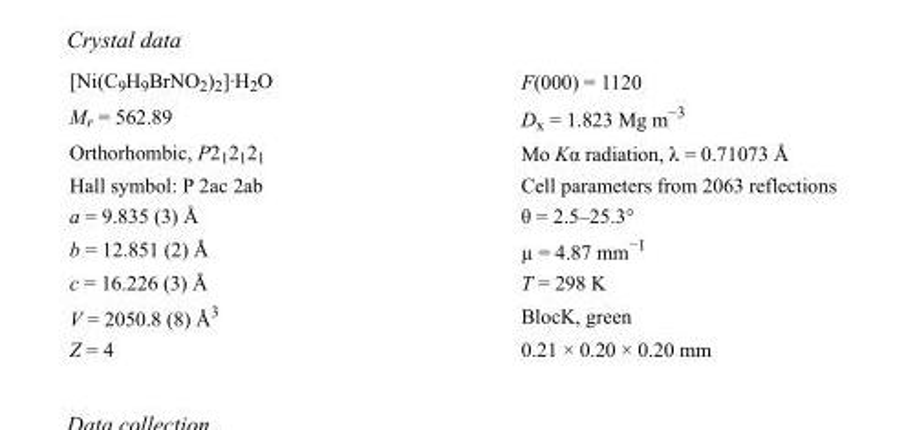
<table><tbody><tr><td>[Ni(C<sub>9</sub>H<sub>9</sub>BrNO<sub>2</sub>)<sub>2</sub>]·H<sub>2</sub>O</td><td>F(000) = 1120</td></tr><tr><td>M<sub>r</sub> = 562.89</td><td>D<sub>x</sub> = 1.823 Mg m<sup>−3</sup></td></tr><tr><td>Orthorhombic, P2<sub>1</sub>2<sub>1</sub>2<sub>1</sub></td><td>Mo Kα radiation, λ = 0.71073 Å</td></tr><tr><td>Hall symbol: P 2ac 2ab</td><td>Cell parameters from 2063 reflections</td></tr><tr><td>a = 9.835 (3) Å</td><td>θ = 2.5–25.3°</td></tr><tr><td>b = 12.851 (2) Å</td><td>µ = 4.87 mm<sup>−1</sup></td></tr><tr><td>c = 16.226 (3) Å</td><td>T = 298 K</td></tr><tr><td>V = 2050.8 (8) Å<sup>3</sup></td><td>BlocK, green</td></tr><tr><td>Z = 4</td><td>0.21 × 0.20 × 0.20 mm</td></tr></tbody></table>